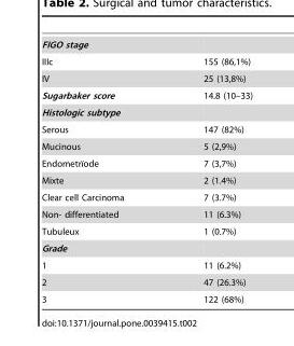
<table><tbody><tr><td colspan="2">FIGO stage</td></tr><tr><td>IIIc</td><td>155 (86,1%)</td></tr><tr><td>IV</td><td>25 (13,8%)</td></tr><tr><td>Sugarbaker score</td><td>14.8 (10–33)</td></tr><tr><td colspan="2">Histologic subtype</td></tr><tr><td>Serous</td><td>147 (82%)</td></tr><tr><td>Mucinous</td><td>5 (2,9%)</td></tr><tr><td>Endometrı¨ode</td><td>7 (3,7%)</td></tr><tr><td>Mixte</td><td>2 (1.4%)</td></tr><tr><td>Clear cell Carcinoma</td><td>7 (3.7%)</td></tr><tr><td>Non- differentiated</td><td>11 (6.3%)</td></tr><tr><td>Tubuleux</td><td>1 (0.7%)</td></tr><tr><td colspan="2">Grade</td></tr><tr><td>1</td><td>11 (6.2%)</td></tr><tr><td>2</td><td>47 (26.3%)</td></tr><tr><td>3</td><td>122 (68%)</td></tr></tbody></table>